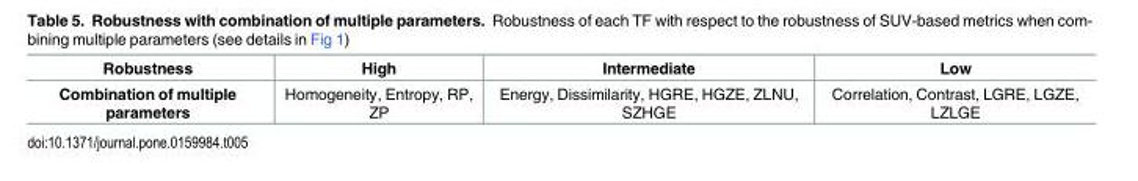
<table><thead><tr><td>Robustness</td><td>High</td><td>Intermediate</td><td>Low</td></tr></thead><tbody><tr><td>Combination of multiple parameters</td><td>Homogeneity, Entropy, RP, ZP</td><td>Energy, Dissimilarity, HGRE, HGZE, ZLNU, SZHGE</td><td>Correlation, Contrast, LGRE, LGZE, LZLGE</td></tr></tbody></table>